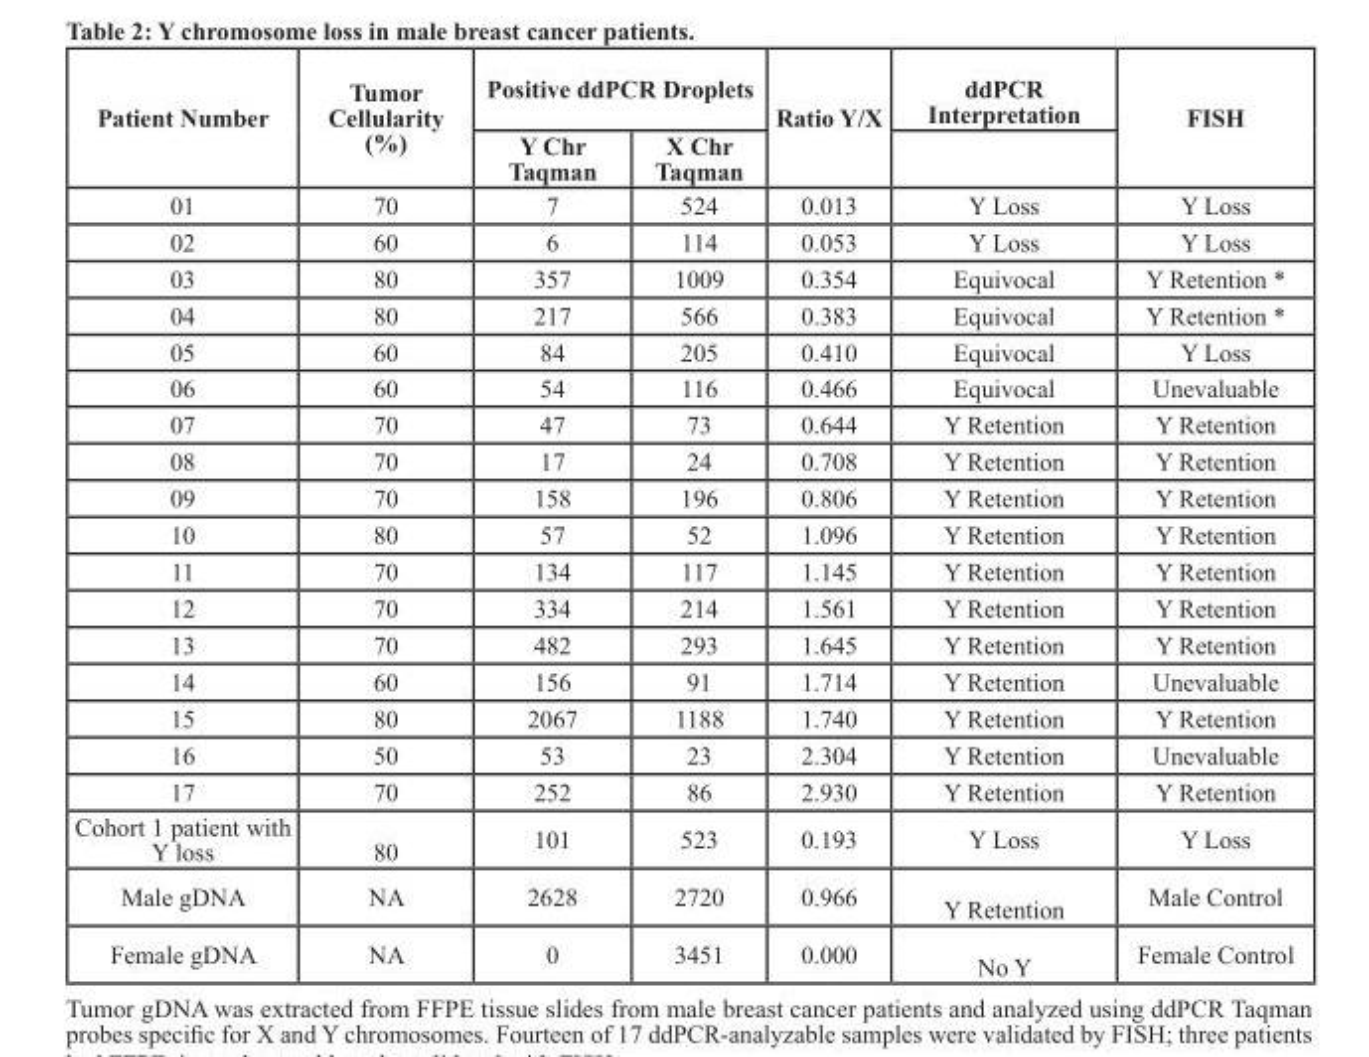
<table><thead><tr><td rowspan="2">Patient Number</td><td rowspan="2">Tumor Cellularity (%)</td><td colspan="2">Positive ddPCR Droplets</td><td rowspan="2">Ratio Y/X</td><td rowspan="2">ddPCR Interpretation</td><td rowspan="2">FISH</td></tr><tr><td>Y Chr Taqman</td><td>X Chr Taqman</td></tr></thead><tbody><tr><td>01</td><td>70</td><td>7</td><td>524</td><td>0.013</td><td>Y Loss</td><td>Y Loss</td></tr><tr><td>02</td><td>60</td><td>6</td><td>114</td><td>0.053</td><td>Y Loss</td><td>Y Loss</td></tr><tr><td>03</td><td>80</td><td>357</td><td>1009</td><td>0.354</td><td>Equivocal</td><td>Y Retention *</td></tr><tr><td>04</td><td>80</td><td>217</td><td>566</td><td>0.383</td><td>Equivocal</td><td>Y Retention *</td></tr><tr><td>05</td><td>60</td><td>84</td><td>205</td><td>0.410</td><td>Equivocal</td><td>Y Loss</td></tr><tr><td>06</td><td>60</td><td>54</td><td>116</td><td>0.466</td><td>Equivocal</td><td>Unevaluable</td></tr><tr><td>07</td><td>70</td><td>47</td><td>73</td><td>0.644</td><td>Y Retention</td><td>Y Retention</td></tr><tr><td>08</td><td>70</td><td>17</td><td>24</td><td>0.708</td><td>Y Retention</td><td>Y Retention</td></tr><tr><td>09</td><td>70</td><td>158</td><td>196</td><td>0.806</td><td>Y Retention</td><td>Y Retention</td></tr><tr><td>10</td><td>80</td><td>57</td><td>52</td><td>1.096</td><td>Y Retention</td><td>Y Retention</td></tr><tr><td>11</td><td>70</td><td>134</td><td>117</td><td>1.145</td><td>Y Retention</td><td>Y Retention</td></tr><tr><td>12</td><td>70</td><td>334</td><td>214</td><td>1.561</td><td>Y Retention</td><td>Y Retention</td></tr><tr><td>13</td><td>70</td><td>482</td><td>293</td><td>1.645</td><td>Y Retention</td><td>Y Retention</td></tr><tr><td>14</td><td>60</td><td>156</td><td>91</td><td>1.714</td><td>Y Retention</td><td>Unevaluable</td></tr><tr><td>15</td><td>80</td><td>2067</td><td>1188</td><td>1.740</td><td>Y Retention</td><td>Y Retention</td></tr><tr><td>16</td><td>50</td><td>53</td><td>23</td><td>2.304</td><td>Y Retention</td><td>Unevaluable</td></tr><tr><td>17</td><td>70</td><td>252</td><td>86</td><td>2.930</td><td>Y Retention</td><td>Y Retention</td></tr><tr><td>Cohort 1 patient with Y loss</td><td>80</td><td>101</td><td>523</td><td>0.193</td><td>Y Loss</td><td>Y Loss</td></tr><tr><td>Male gDNA</td><td>NA</td><td>2628</td><td>2720</td><td>0.966</td><td>Y Retention</td><td>Male Control</td></tr><tr><td>Female gDNA</td><td>NA</td><td>0</td><td>3451</td><td>0.000</td><td>No Y</td><td>Female Control</td></tr></tbody></table>